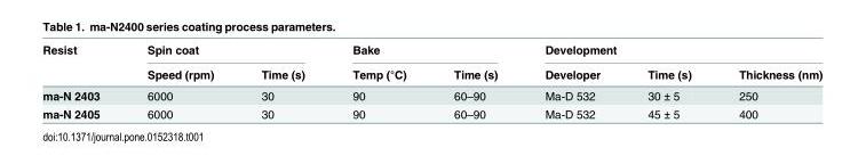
<table><thead><tr><td rowspan="2">Resist</td><td colspan="2">Spin coat</td><td colspan="2">Bake</td><td colspan="3">Development</td></tr><tr><td>Speed (rpm)</td><td>Time (s)</td><td>Temp (°C)</td><td>Time (s)</td><td>Developer</td><td>Time (s)</td><td>Thickness (nm)</td></tr></thead><tbody><tr><td>ma-N 2403</td><td>6000</td><td>30</td><td>90</td><td>60–90</td><td>Ma-D 532</td><td>30 ± 5</td><td>250</td></tr><tr><td>ma-N 2405</td><td>6000</td><td>30</td><td>90</td><td>60–90</td><td>Ma-D 532</td><td>45 ± 5</td><td>400</td></tr></tbody></table>